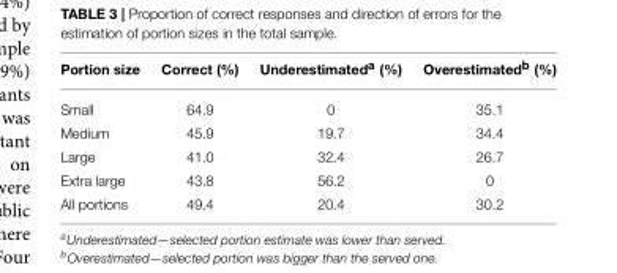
<table><thead><tr><td>Portion size</td><td>Correct (%)</td><td>Underestimated<sup>a</sup> (%)</td><td>Overestimated<sup>b</sup> (%)</td></tr></thead><tbody><tr><td>Small</td><td>64.9</td><td>0</td><td>35.1</td></tr><tr><td>Medium</td><td>45.9</td><td>19.7</td><td>34.4</td></tr><tr><td>Large</td><td>41.0</td><td>32.4</td><td>26.7</td></tr><tr><td>Extra large</td><td>43.8</td><td>56.2</td><td>0</td></tr><tr><td>All portions</td><td>49.4</td><td>20.4</td><td>30.2</td></tr></tbody></table>